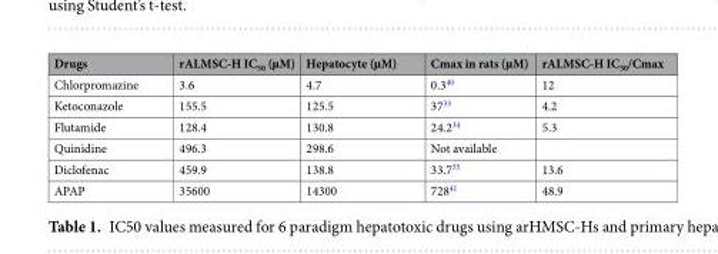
<table><thead><tr><td>Drugs</td><td>rALMSC-H IC<sub>50</sub> (µM)</td><td>Hepatocyte (µM)</td><td>Cmax in rats (µM)</td><td>rALMSC-H IC<sub>50</sub>/Cmax</td></tr></thead><tbody><tr><td>Chlorpromazine</td><td>3.6</td><td>4.7</td><td>0.3<sup>40</sup></td><td>12</td></tr><tr><td>Ketoconazole</td><td>155.5</td><td>125.5</td><td>37<sup>33</sup></td><td>4.2</td></tr><tr><td>Flutamide</td><td>128.4</td><td>130.8</td><td>24.2<sup>34</sup></td><td>5.3</td></tr><tr><td>Quinidine</td><td>496.3</td><td>298.6</td><td>Not available</td><td></td></tr><tr><td>Diclofenac</td><td>459.9</td><td>138.8</td><td>33.7<sup>35</sup></td><td>13.6</td></tr><tr><td>APAP</td><td>35600</td><td>14300</td><td>728<sup>41</sup></td><td>48.9</td></tr></tbody></table>